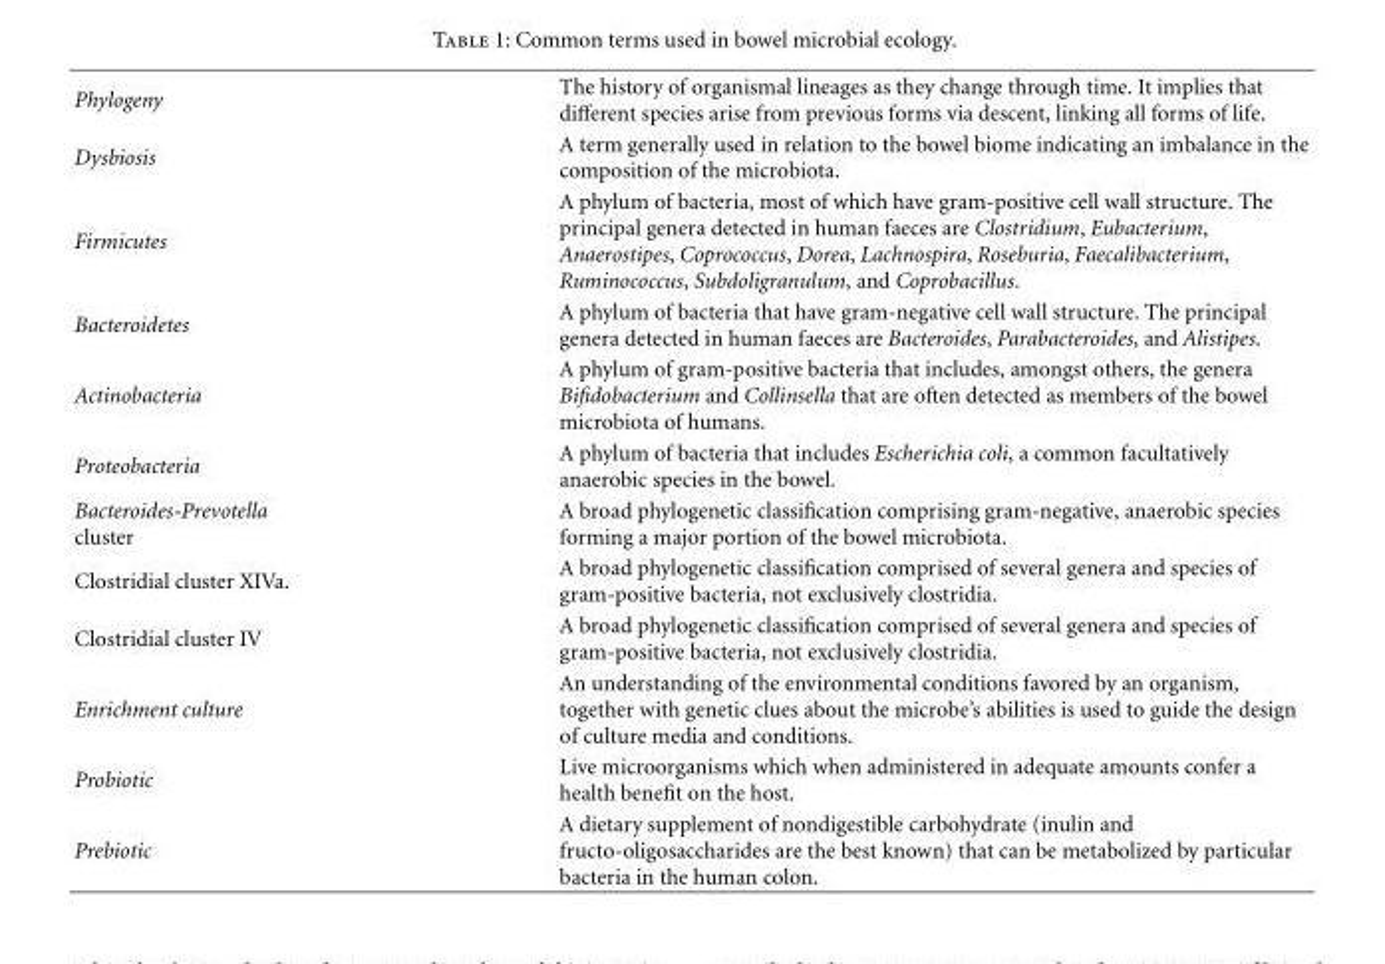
<table><tbody><tr><td>Phylogeny</td><td>The history of organismal lineages as they change through time. It implies that different species arise from previous forms via descent, linking all forms of life.</td></tr><tr><td>Dysbiosis</td><td>A term generally used in relation to the bowel biome indicating an imbalance in the composition of the microbiota.</td></tr><tr><td>Firmicutes</td><td>A phylum of bacteria, most of which have gram-positive cell wall structure. The principal genera detected in human faeces are Clostridium, Eubacterium, Anaerostipes, Coprococcus, Dorea, Lachnospira, Roseburia, Faecalibacterium, Ruminococcus, Subdoligranulum, and Coprobacillus.</td></tr><tr><td>Bacteroidetes</td><td>A phylum of bacteria that have gram-negative cell wall structure. The principal genera detected in human faeces are Bacteroides, Parabacteroides, and Alistipes.</td></tr><tr><td>Actinobacteria</td><td>A phylum of gram-positive bacteria that includes, amongst others, the genera Bifidobacterium and Collinsella that are often detected as members of the bowel microbiota of humans.</td></tr><tr><td>Proteobacteria</td><td>A phylum of bacteria that includes Escherichia coli, a common facultatively anaerobic species in the bowel.</td></tr><tr><td>Bacteroides-Prevotella cluster</td><td>A broad phylogenetic classification comprising gram-negative, anaerobic species forming a major portion of the bowel microbiota.</td></tr><tr><td>Clostridial cluster XIVa.</td><td>A broad phylogenetic classification comprised of several genera and species of gram-positive bacteria, not exclusively clostridia.</td></tr><tr><td>Clostridial cluster IV</td><td>A broad phylogenetic classification comprised of several genera and species of gram-positive bacteria, not exclusively clostridia.</td></tr><tr><td>Enrichment culture</td><td>An understanding of the environmental conditions favored by an organism, together with genetic clues about the microbe’s abilities is used to guide the design of culture media and conditions.</td></tr><tr><td>Probiotic</td><td>Live microorganisms which when administered in adequate amounts confer a health benefit on the host.</td></tr><tr><td>Prebiotic</td><td>A dietary supplement of nondigestible carbohydrate (inulin and fructo-oligosaccharides are the best known) that can be metabolized by particular bacteria in the human colon.</td></tr></tbody></table>